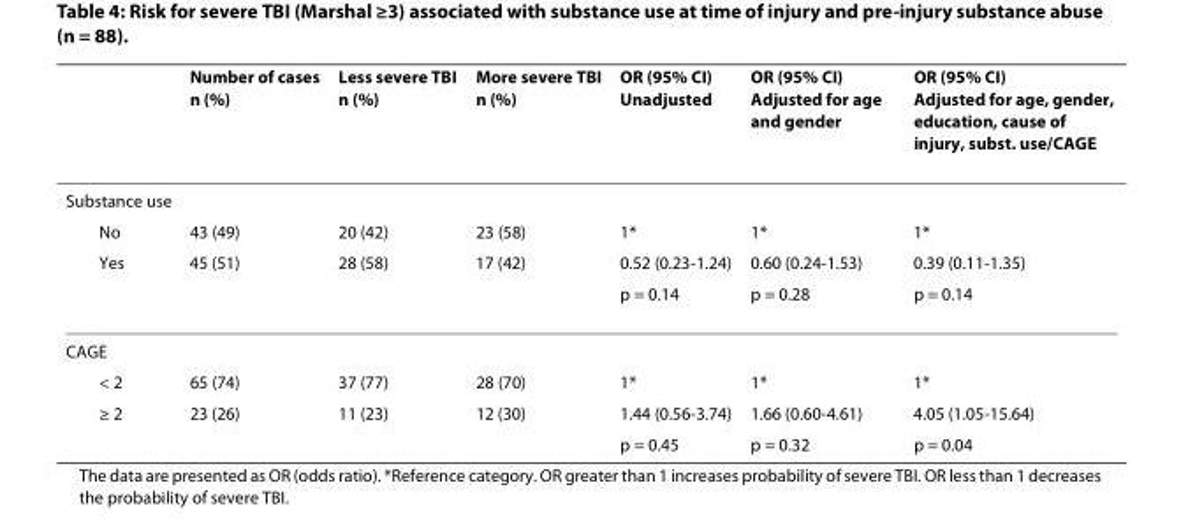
<table><thead><tr><td></td><td>Number of cases n (%)</td><td>Less severe TBI n (%)</td><td>More severe TBI n (%)</td><td>OR (95% CI) Unadjusted</td><td>OR (95% CI) Adjusted for age and gender</td><td>OR (95% CI) Adjusted for age, gender, education, cause of injury, subst. use/CAGE</td></tr></thead><tbody><tr><td colspan="7">Substance use</td></tr><tr><td>No</td><td>43 (49)</td><td>20 (42)</td><td>23 (58)</td><td>1*</td><td>1*</td><td>1*</td></tr><tr><td rowspan="2">Yes</td><td>45 (51)</td><td>28 (58)</td><td>17 (42)</td><td>0.52 (0.23-1.24)</td><td>0.60 (0.24-1.53)</td><td>0.39 (0.11-1.35)</td></tr><tr><td></td><td></td><td></td><td>p = 0.14</td><td>p = 0.28</td><td>p = 0.14</td></tr><tr><td colspan="7">CAGE</td></tr><tr><td>&lt; 2</td><td>65 (74)</td><td>37 (77)</td><td>28 (70)</td><td>1*</td><td>1*</td><td>1*</td></tr><tr><td rowspan="2">≥ 2</td><td>23 (26)</td><td>11 (23)</td><td>12 (30)</td><td>1.44 (0.56-3.74)</td><td>1.66 (0.60-4.61)</td><td>4.05 (1.05-15.64)</td></tr><tr><td></td><td></td><td></td><td>p = 0.45</td><td>p = 0.32</td><td>p = 0.04</td></tr></tbody></table>